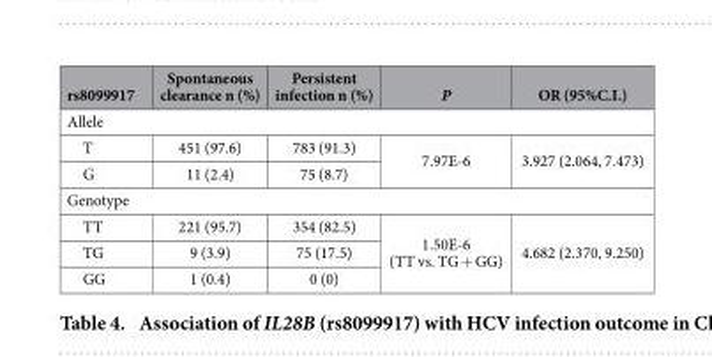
<table><thead><tr><td>rs8099917</td><td>Spontaneous clearance n (%)</td><td>Persistent infection n (%)</td><td>P</td><td>OR (95%C.I.)</td></tr></thead><tbody><tr><td colspan="5">Allele</td></tr><tr><td>T</td><td>451 (97.6)</td><td>783 (91.3)</td><td rowspan="2">7.97E-6</td><td rowspan="2">3.927 (2.064, 7.473)</td></tr><tr><td>G</td><td>11 (2.4)</td><td>75 (8.7)</td></tr><tr><td colspan="5">Genotype</td></tr><tr><td>TT</td><td>221 (95.7)</td><td>354 (82.5)</td><td rowspan="3">1.50E-6 (TT vs. TG + GG)</td><td rowspan="3">4.682 (2.370, 9.250)</td></tr><tr><td>TG</td><td>9 (3.9)</td><td>75 (17.5)</td></tr><tr><td>GG</td><td>1 (0.4)</td><td>0 (0)</td></tr></tbody></table>